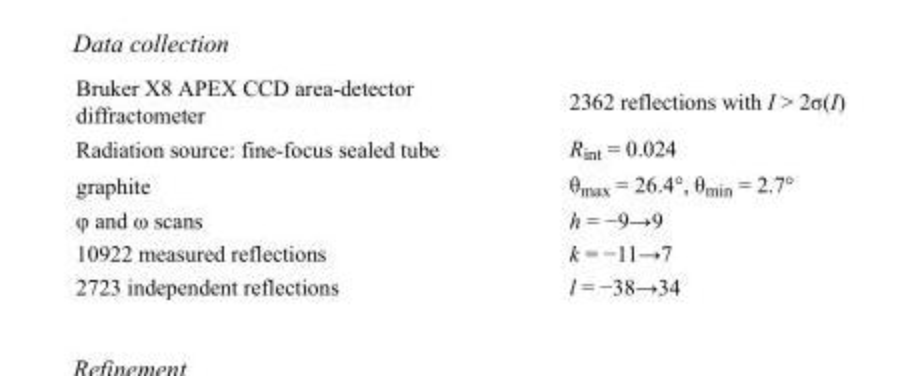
<table><tbody><tr><td>Bruker X8 APEX CCD area-detector diffractometer</td><td>2362 reflections with I &gt; 2σ(I)</td></tr><tr><td>Radiation source: fine-focus sealed tube</td><td>R<sub>int</sub> = 0.024</td></tr><tr><td>graphite</td><td>θ<sub>max</sub> = 26.4°, θ<sub>min</sub> = 2.7°</td></tr><tr><td>φ and ω scans</td><td>h = −9→9</td></tr><tr><td>10922 measured reflections</td><td>k = −11→7</td></tr><tr><td>2723 independent reflections</td><td>l = −38→34</td></tr></tbody></table>